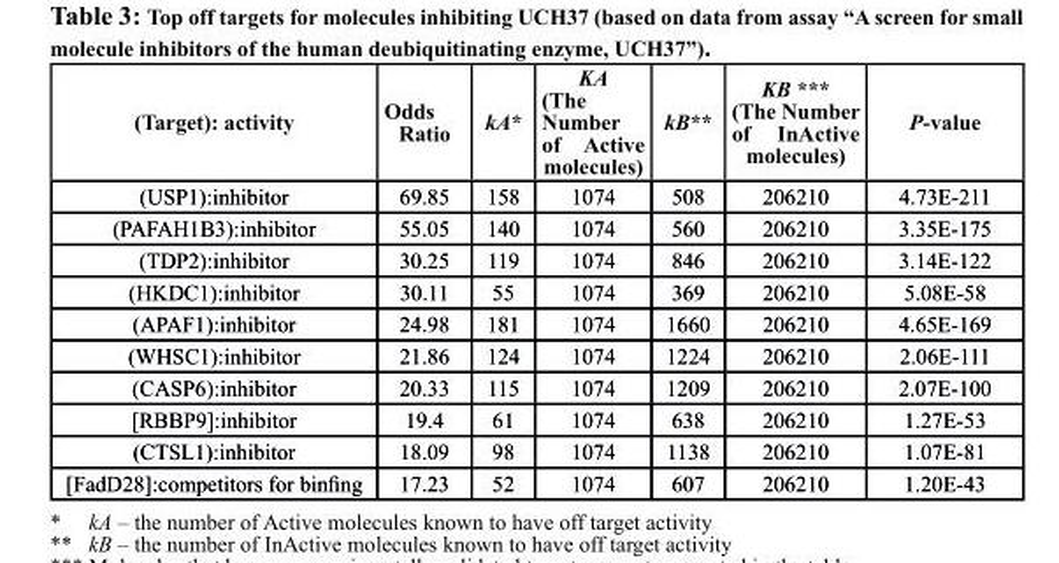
<table><thead><tr><td>(target): activity</td><td>odds ratio</td><td>kA*</td><td>KA (the number of Active molecules)</td><td>kB**</td><td>KB *** (the number of InActive molecules)</td><td>P-value</td></tr></thead><tbody><tr><td>(USP1):inhibitor</td><td>69.85</td><td>158</td><td>1074</td><td>508</td><td>206210</td><td>4.73E-211</td></tr><tr><td>(PAFAH1B3):inhibitor</td><td>55.05</td><td>140</td><td>1074</td><td>560</td><td>206210</td><td>3.35E-175</td></tr><tr><td>(TDP2):inhibitor</td><td>30.25</td><td>119</td><td>1074</td><td>846</td><td>206210</td><td>3.14E-122</td></tr><tr><td>(HKDC1):inhibitor</td><td>30.11</td><td>55</td><td>1074</td><td>369</td><td>206210</td><td>5.08E-58</td></tr><tr><td>(APAF1):inhibitor</td><td>24.98</td><td>181</td><td>1074</td><td>1660</td><td>206210</td><td>4.65E-169</td></tr><tr><td>(WHSC1):inhibitor</td><td>21.86</td><td>124</td><td>1074</td><td>1224</td><td>206210</td><td>2.06E-111</td></tr><tr><td>(CASP6):inhibitor</td><td>20.33</td><td>115</td><td>1074</td><td>1209</td><td>206210</td><td>2.07E-100</td></tr><tr><td>[RBBP9]:inhibitor</td><td>19.4</td><td>61</td><td>1074</td><td>638</td><td>206210</td><td>1.27E-53</td></tr><tr><td>(CTSL1):inhibitor</td><td>18.09</td><td>98</td><td>1074</td><td>1138</td><td>206210</td><td>1.07E-81</td></tr><tr><td>[FadD28]:competitors for binfing</td><td>17.23</td><td>52</td><td>1074</td><td>607</td><td>206210</td><td>1.20E-43</td></tr></tbody></table>